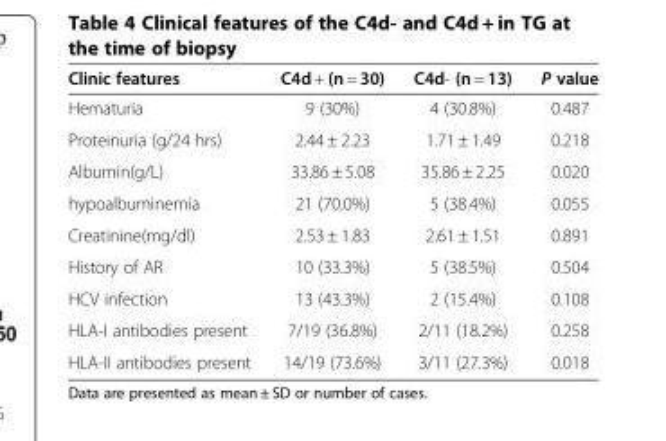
<table><thead><tr><td>Clinic features</td><td>C4d + (n = 30)</td><td>C4d- (n = 13)</td><td>P value</td></tr></thead><tbody><tr><td>Hematuria</td><td>9 (30%)</td><td>4 (30.8%)</td><td>0.487</td></tr><tr><td>Proteinuria (g/24 hrs)</td><td>2.44 ± 2.23</td><td>1.71 ± 1.49</td><td>0.218</td></tr><tr><td>Albumin(g/L)</td><td>33.86 ± 5.08</td><td>35.86 ± 2.25</td><td>0.020</td></tr><tr><td>hypoalbuminemia</td><td>21 (70.0%)</td><td>5 (38.4%)</td><td>0.055</td></tr><tr><td>Creatinine(mg/dl)</td><td>2.53 ± 1.83</td><td>2.61 ± 1.51</td><td>0.891</td></tr><tr><td>History of AR</td><td>10 (33.3%)</td><td>5 (38.5%)</td><td>0.504</td></tr><tr><td>HCV infection</td><td>13 (43.3%)</td><td>2 (15.4%)</td><td>0.108</td></tr><tr><td>HLA-I antibodies present</td><td>7/19 (36.8%)</td><td>2/11 (18.2%)</td><td>0.258</td></tr><tr><td>HLA-II antibodies present</td><td>14/19 (73.6%)</td><td>3/11 (27.3%)</td><td>0.018</td></tr></tbody></table>